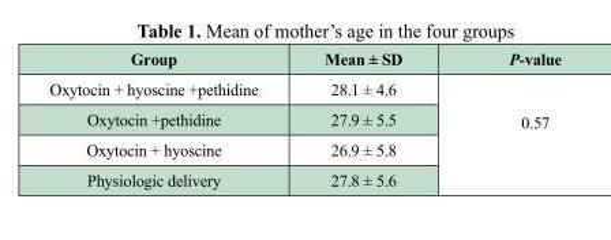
<table><thead><tr><td>Group</td><td>Mean ± SD</td><td>P-value</td></tr></thead><tbody><tr><td>Oxytocin + hyoscine +pethidine</td><td>28.1 ± 4.6</td><td rowspan="4">0.57</td></tr><tr><td>Oxytocin +pethidine</td><td>27.9 ± 5.5</td></tr><tr><td>Oxytocin + hyoscine</td><td>26.9 ± 5.8</td></tr><tr><td>Physiologic delivery</td><td>27.8 ± 5.6</td></tr></tbody></table>